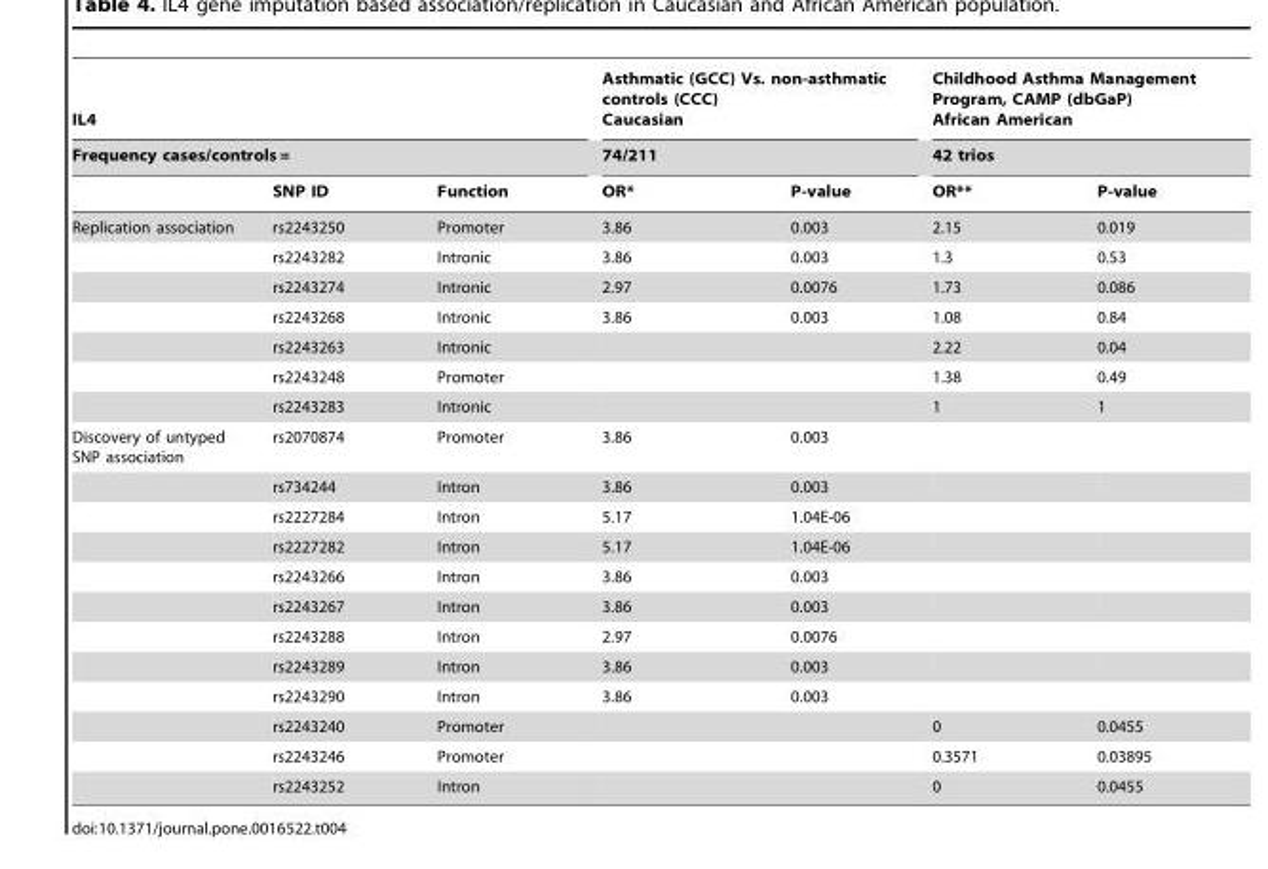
<table><thead><tr><td rowspan="2" colspan="3">IL4 Frequency cases/controls =</td><td rowspan="2" colspan="2">Asthmatic (GCC) Vs. non-asthmatic controls (CCC) Caucasian 74/211</td><td rowspan="2" colspan="2">Childhood Asthma Management Program, CAMP (dbGaP) African American 42 trios</td></tr><tr></tr><tr><td></td><td>SNP ID</td><td>Function</td><td>OR*</td><td>P-value</td><td>OR**</td><td>P-value</td></tr></thead><tbody><tr><td rowspan="7">Replication association</td><td>rs2243250</td><td>Promoter</td><td>3.86</td><td>0.003</td><td>2.15</td><td>0.019</td></tr><tr><td>rs2243282</td><td>Intronic</td><td>3.86</td><td>0.003</td><td>1.3</td><td>0.53</td></tr><tr><td>rs2243274</td><td>Intronic</td><td>2.97</td><td>0.0076</td><td>1.73</td><td>0.086</td></tr><tr><td>rs2243268</td><td>Intronic</td><td>3.86</td><td>0.003</td><td>1.08</td><td>0.84</td></tr><tr><td>rs2243263</td><td>Intronic</td><td></td><td></td><td>2.22</td><td>0.04</td></tr><tr><td>rs2243248</td><td>Promoter</td><td></td><td></td><td>1.38</td><td>0.49</td></tr><tr><td>rs2243283</td><td>Intronic</td><td></td><td></td><td>1</td><td>1</td></tr><tr><td rowspan="12">Discovery of untyped SNP association</td><td>rs2070874</td><td>Promoter</td><td>3.86</td><td>0.003</td><td></td><td></td></tr><tr><td>rs734244</td><td>Intron</td><td>3.86</td><td>0.003</td><td></td><td></td></tr><tr><td>rs2227284</td><td>Intron</td><td>5.17</td><td>1.04E-06</td><td></td><td></td></tr><tr><td>rs2227282</td><td>Intron</td><td>5.17</td><td>1.04E-06</td><td></td><td></td></tr><tr><td>rs2243266</td><td>Intron</td><td>3.86</td><td>0.003</td><td></td><td></td></tr><tr><td>rs2243267</td><td>Intron</td><td>3.86</td><td>0.003</td><td></td><td></td></tr><tr><td>rs2243288</td><td>Intron</td><td>2.97</td><td>0.0076</td><td></td><td></td></tr><tr><td>rs2243289</td><td>Intron</td><td>3.86</td><td>0.003</td><td></td><td></td></tr><tr><td>rs2243290</td><td>Intron</td><td>3.86</td><td>0.003</td><td></td><td></td></tr><tr><td>rs2243240</td><td>Promoter</td><td></td><td></td><td>0</td><td>0.0455</td></tr><tr><td>rs2243246</td><td>Promoter</td><td></td><td></td><td>0.3571</td><td>0.03895</td></tr><tr><td>rs2243252</td><td>Intron</td><td></td><td></td><td>0</td><td>0.0455</td></tr></tbody></table>